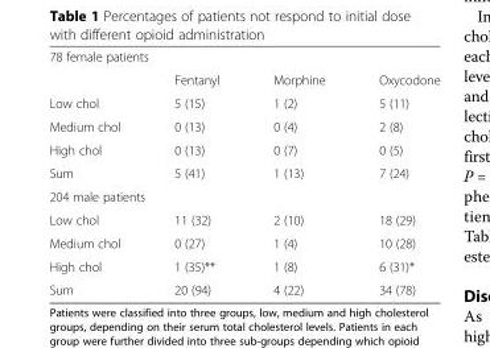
<table><tbody><tr><td colspan="4">78 female patients</td></tr><tr><td></td><td>Fentanyl</td><td>Morphine</td><td>Oxycodone</td></tr><tr><td>Low chol</td><td>5 (15)</td><td>1 (2)</td><td>5 (11)</td></tr><tr><td>Medium chol</td><td>0 (13)</td><td>0 (4)</td><td>2 (8)</td></tr><tr><td>High chol</td><td>0 (13)</td><td>0 (7)</td><td>0 (5)</td></tr><tr><td>Sum</td><td>5 (41)</td><td>1 (13)</td><td>7 (24)</td></tr><tr><td colspan="4">204 male patients</td></tr><tr><td>Low chol</td><td>11 (32)</td><td>2 (10)</td><td>18 (29)</td></tr><tr><td>Medium chol</td><td>0 (27)</td><td>1 (4)</td><td>10 (28)</td></tr><tr><td>High chol</td><td>1 (35)**</td><td>1 (8)</td><td>6 (31)*</td></tr><tr><td>Sum</td><td>20 (94)</td><td>4 (22)</td><td>34 (78)</td></tr></tbody></table>